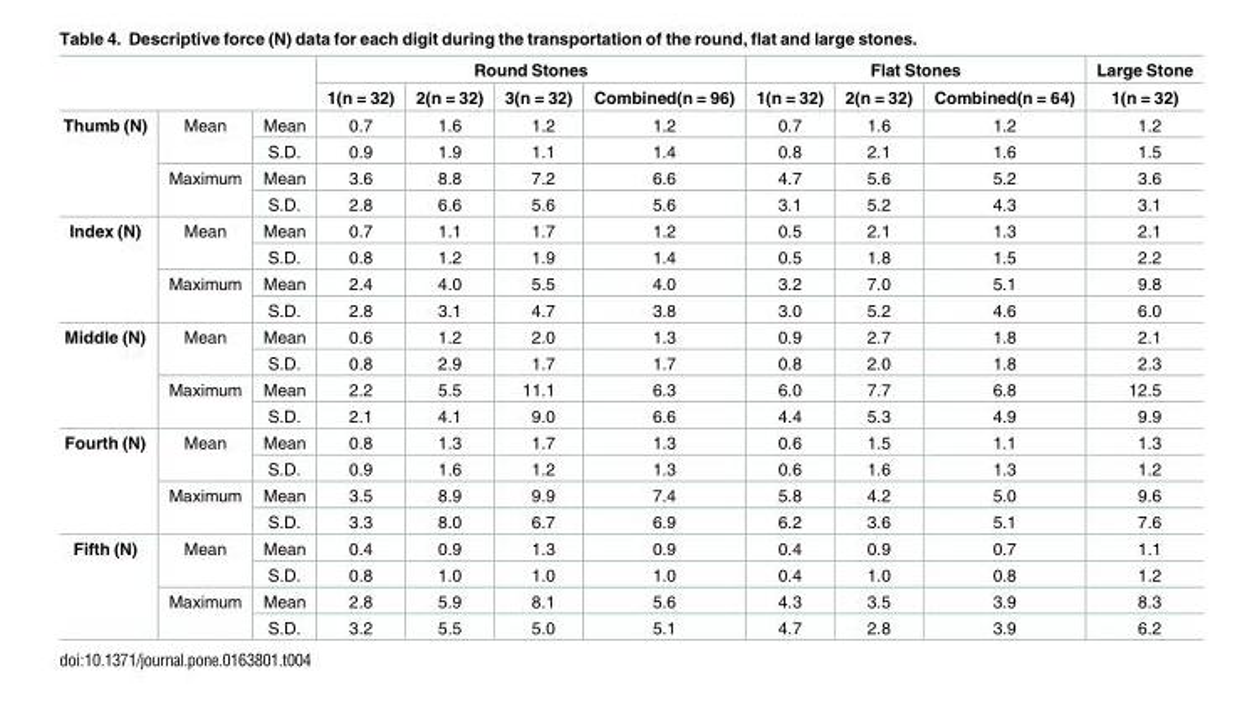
<table><thead><tr><td rowspan="2"></td><td rowspan="2"></td><td rowspan="2"></td><td colspan="4">Round Stones</td><td colspan="3">Flat Stones</td><td rowspan="2">Large Stone 1(n = 32)</td></tr><tr><td>1(n = 32)</td><td>2(n = 32)</td><td>3(n = 32)</td><td>Combined(n = 96)</td><td>1(n = 32)</td><td>2(n = 32)</td><td>Combined(n = 64)</td></tr></thead><tbody><tr><td rowspan="4">Thumb (N)</td><td rowspan="2">Mean</td><td>Mean</td><td>0.7</td><td>1.6</td><td>1.2</td><td>1.2</td><td>0.7</td><td>1.6</td><td>1.2</td><td>1.2</td></tr><tr><td>S.D.</td><td>0.9</td><td>1.9</td><td>1.1</td><td>1.4</td><td>0.8</td><td>2.1</td><td>1.6</td><td>1.5</td></tr><tr><td rowspan="2">Maximum</td><td>Mean</td><td>3.6</td><td>8.8</td><td>7.2</td><td>6.6</td><td>4.7</td><td>5.6</td><td>5.2</td><td>3.6</td></tr><tr><td>S.D.</td><td>2.8</td><td>6.6</td><td>5.6</td><td>5.6</td><td>3.1</td><td>5.2</td><td>4.3</td><td>3.1</td></tr><tr><td rowspan="4">Index (N)</td><td rowspan="2">Mean</td><td>Mean</td><td>0.7</td><td>1.1</td><td>1.7</td><td>1.2</td><td>0.5</td><td>2.1</td><td>1.3</td><td>2.1</td></tr><tr><td>S.D.</td><td>0.8</td><td>1.2</td><td>1.9</td><td>1.4</td><td>0.5</td><td>1.8</td><td>1.5</td><td>2.2</td></tr><tr><td rowspan="2">Maximum</td><td>Mean</td><td>2.4</td><td>4.0</td><td>5.5</td><td>4.0</td><td>3.2</td><td>7.0</td><td>5.1</td><td>9.8</td></tr><tr><td>S.D.</td><td>2.8</td><td>3.1</td><td>4.7</td><td>3.8</td><td>3.0</td><td>5.2</td><td>4.6</td><td>6.0</td></tr><tr><td rowspan="4">Middle (N)</td><td rowspan="2">Mean</td><td>Mean</td><td>0.6</td><td>1.2</td><td>2.0</td><td>1.3</td><td>0.9</td><td>2.7</td><td>1.8</td><td>2.1</td></tr><tr><td>S.D.</td><td>0.8</td><td>2.9</td><td>1.7</td><td>1.7</td><td>0.8</td><td>2.0</td><td>1.8</td><td>2.3</td></tr><tr><td rowspan="2">Maximum</td><td>Mean</td><td>2.2</td><td>5.5</td><td>11.1</td><td>6.3</td><td>6.0</td><td>7.7</td><td>6.8</td><td>12.5</td></tr><tr><td>S.D.</td><td>2.1</td><td>4.1</td><td>9.0</td><td>6.6</td><td>4.4</td><td>5.3</td><td>4.9</td><td>9.9</td></tr><tr><td rowspan="4">Fourth (N)</td><td rowspan="2">Mean</td><td>Mean</td><td>0.8</td><td>1.3</td><td>1.7</td><td>1.3</td><td>0.6</td><td>1.5</td><td>1.1</td><td>1.3</td></tr><tr><td>S.D.</td><td>0.9</td><td>1.6</td><td>1.2</td><td>1.3</td><td>0.6</td><td>1.6</td><td>1.3</td><td>1.2</td></tr><tr><td rowspan="2">Maximum</td><td>Mean</td><td>3.5</td><td>8.9</td><td>9.9</td><td>7.4</td><td>5.8</td><td>4.2</td><td>5.0</td><td>9.6</td></tr><tr><td>S.D.</td><td>3.3</td><td>8.0</td><td>6.7</td><td>6.9</td><td>6.2</td><td>3.6</td><td>5.1</td><td>7.6</td></tr><tr><td rowspan="4">Fifth (N)</td><td rowspan="2">Mean</td><td>Mean</td><td>0.4</td><td>0.9</td><td>1.3</td><td>0.9</td><td>0.4</td><td>0.9</td><td>0.7</td><td>1.1</td></tr><tr><td>S.D.</td><td>0.8</td><td>1.0</td><td>1.0</td><td>1.0</td><td>0.4</td><td>1.0</td><td>0.8</td><td>1.2</td></tr><tr><td rowspan="2">Maximum</td><td>Mean</td><td>2.8</td><td>5.9</td><td>8.1</td><td>5.6</td><td>4.3</td><td>3.5</td><td>3.9</td><td>8.3</td></tr><tr><td>S.D.</td><td>3.2</td><td>5.5</td><td>5.0</td><td>5.1</td><td>4.7</td><td>2.8</td><td>3.9</td><td>6.2</td></tr></tbody></table>